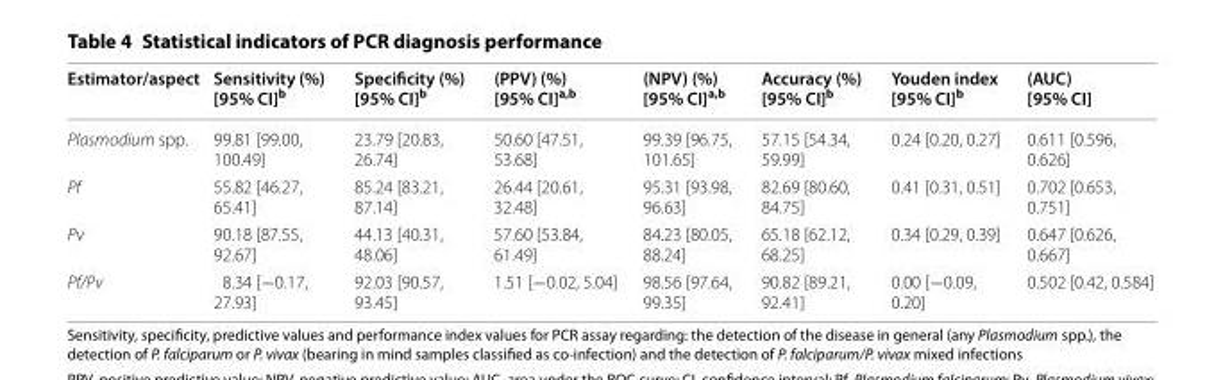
<table><thead><tr><td>Estimator/aspect</td><td>Sensitivity (%) [95% CI]<sup>b</sup></td><td>Specificity (%) [95% CI]<sup>b</sup></td><td>(PPV) (%) [95% CI]<sup>a,b</sup></td><td>(NPV) (%) [95% CI]<sup>a,b</sup></td><td>Accuracy (%) [95% CI]<sup>b</sup></td><td>Youden index [95% CI]<sup>b</sup></td><td>(AUC) [95% CI]</td></tr></thead><tbody><tr><td>Plasmodium spp.</td><td>99.81 [99.00, 100.49]</td><td>23.79 [20.83, 26.74]</td><td>50.60 [47.51, 53.68]</td><td>99.39 [96.75, 101.65]</td><td>57.15 [54.34, 59.99]</td><td>0.24 [0.20, 0.27]</td><td>0.611 [0.596, 0.626]</td></tr><tr><td>Pf</td><td>55.82 [46.27, 65.41]</td><td>85.24 [83.21, 87.14]</td><td>26.44 [20.61, 32.48]</td><td>95.31 [93.98, 96.63]</td><td>82.69 [80.60, 84.75]</td><td>0.41 [0.31, 0.51]</td><td>0.702 [0.653, 0.751]</td></tr><tr><td>Pv</td><td>90.18 [87.55, 92.67]</td><td>44.13 [40.31, 48.06]</td><td>57.60 [53.84, 61.49]</td><td>84.23 [80.05, 88.24]</td><td>65.18 [62.12, 68.25]</td><td>0.34 [0.29, 0.39]</td><td>0.647 [0.626, 0.667]</td></tr><tr><td>Pf/Pv</td><td>8.34 [−0.17, 27.93]</td><td>92.03 [90.57, 93.45]</td><td>1.51 [−0.02, 5.04]</td><td>98.56 [97.64, 99.35]</td><td>90.82 [89.21, 92.41]</td><td>0.00 [−0.09, 0.20]</td><td>0.502 [0.42, 0.584]</td></tr></tbody></table>